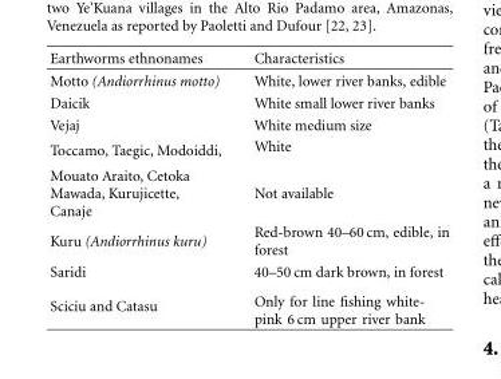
<table><thead><tr><td>Earthworms ethnonames</td><td>Characteristics</td></tr></thead><tbody><tr><td>Motto (Andiorrhinus motto)</td><td>White, lower river banks, edible</td></tr><tr><td>Daicik</td><td>White small lower river banks</td></tr><tr><td>Vejaj</td><td>White medium size</td></tr><tr><td>Toccamo, Taegic, Modoiddi,</td><td>White</td></tr><tr><td>Mouato Araito, Cetoka Mawada, Kurujicette, Canaje</td><td>Not available</td></tr><tr><td>Kuru (Andiorrhinus kuru)</td><td>Red-brown 40–60 cm, edible, in forest</td></tr><tr><td>Saridi</td><td>40–50 cm dark brown, in forest</td></tr><tr><td>Sciciu and Catasu</td><td>Only for line fishing white- pink 6 cm upper river bank</td></tr></tbody></table>